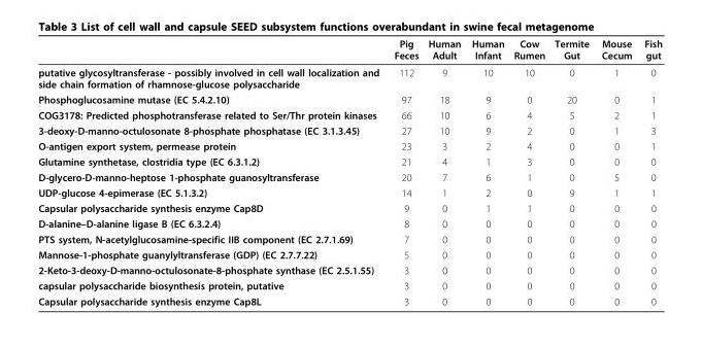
<table><thead><tr><td></td><td>Pig Feces</td><td>Human Adult</td><td>Human Infant</td><td>Cow Rumen</td><td>Termite Gut</td><td>Mouse Cecum</td><td>Fish gut</td></tr></thead><tbody><tr><td>putative glycosyltransferase - possibly involved in cell wall localization and side chain formation of rhamnose-glucose polysaccharide</td><td>112</td><td>9</td><td>10</td><td>10</td><td>0</td><td>1</td><td>0</td></tr><tr><td>Phosphoglucosamine mutase (EC 5.4.2.10)</td><td>97</td><td>18</td><td>9</td><td>0</td><td>20</td><td>0</td><td>1</td></tr><tr><td>COG3178: Predicted phosphotransferase related to Ser/Thr protein kinases</td><td>66</td><td>10</td><td>6</td><td>4</td><td>5</td><td>2</td><td>1</td></tr><tr><td>3-deoxy-D-manno-octulosonate 8-phosphate phosphatase (EC 3.1.3.45)</td><td>27</td><td>10</td><td>9</td><td>2</td><td>0</td><td>1</td><td>3</td></tr><tr><td>O-antigen export system, permease protein</td><td>23</td><td>3</td><td>2</td><td>4</td><td>0</td><td>0</td><td>1</td></tr><tr><td>Glutamine synthetase, clostridia type (EC 6.3.1.2)</td><td>21</td><td>4</td><td>1</td><td>3</td><td>0</td><td>0</td><td>0</td></tr><tr><td>D-glycero-D-manno-heptose 1-phosphate guanosyltransferase</td><td>20</td><td>7</td><td>6</td><td>1</td><td>0</td><td>5</td><td>0</td></tr><tr><td>UDP-glucose 4-epimerase (EC 5.1.3.2)</td><td>14</td><td>1</td><td>2</td><td>0</td><td>9</td><td>1</td><td>1</td></tr><tr><td>Capsular polysaccharide synthesis enzyme Cap8D</td><td>9</td><td>0</td><td>1</td><td>1</td><td>0</td><td>0</td><td>0</td></tr><tr><td>D-alanine–D-alanine ligase B (EC 6.3.2.4)</td><td>8</td><td>0</td><td>0</td><td>0</td><td>0</td><td>0</td><td>0</td></tr><tr><td>PTS system, N-acetylglucosamine-specific IIB component (EC 2.7.1.69)</td><td>7</td><td>0</td><td>0</td><td>0</td><td>0</td><td>0</td><td>0</td></tr><tr><td>Mannose-1-phosphate guanylyltransferase (GDP) (EC 2.7.7.22)</td><td>5</td><td>0</td><td>0</td><td>0</td><td>0</td><td>0</td><td>0</td></tr><tr><td>2-Keto-3-deoxy-D-manno-octulosonate-8-phosphate synthase (EC 2.5.1.55)</td><td>3</td><td>0</td><td>0</td><td>0</td><td>0</td><td>0</td><td>0</td></tr><tr><td>capsular polysaccharide biosynthesis protein, putative</td><td>3</td><td>0</td><td>0</td><td>0</td><td>0</td><td>0</td><td>0</td></tr><tr><td>Capsular polysaccharide synthesis enzyme Cap8L</td><td>3</td><td>0</td><td>0</td><td>0</td><td>0</td><td>0</td><td>0</td></tr></tbody></table>